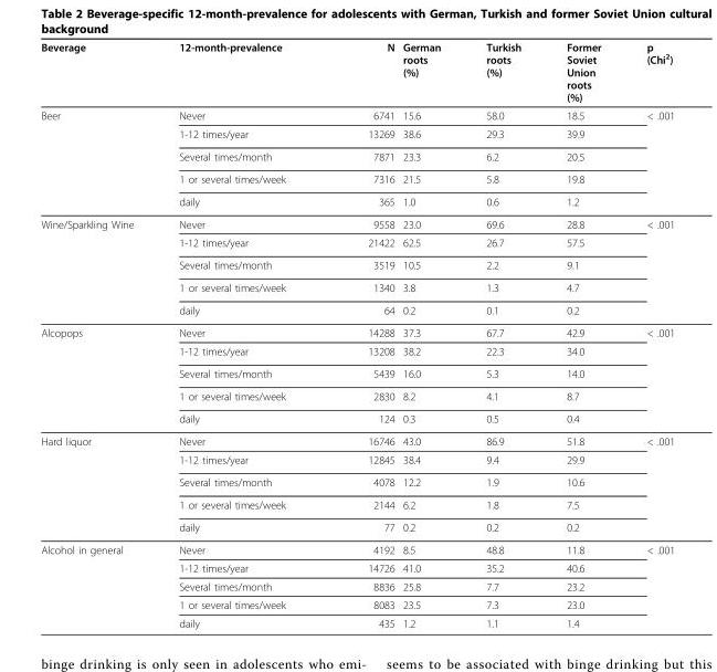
<table><thead><tr><td>Beverage</td><td>12-month-prevalence</td><td>N</td><td>German roots (%)</td><td>Turkish roots (%)</td><td>Former Soviet Union roots (%)</td><td>p (Chi<sup>2</sup>)</td></tr></thead><tbody><tr><td rowspan="5">Beer</td><td>Never</td><td>6741</td><td>15.6</td><td>58.0</td><td>18.5</td><td>&lt; .001</td></tr><tr><td>1-12 times/year</td><td>13269</td><td>38.6</td><td>29.3</td><td>39.9</td><td></td></tr><tr><td>Several times/month</td><td>7871</td><td>23.3</td><td>6.2</td><td>20.5</td><td></td></tr><tr><td>1 or several times/week</td><td>7316</td><td>21.5</td><td>5.8</td><td>19.8</td><td></td></tr><tr><td>daily</td><td>365</td><td>1.0</td><td>0.6</td><td>1.2</td><td></td></tr><tr><td rowspan="5">Wine/Sparkling Wine</td><td>Never</td><td>9558</td><td>23.0</td><td>69.6</td><td>28.8</td><td>&lt; .001</td></tr><tr><td>1-12 times/year</td><td>21422</td><td>62.5</td><td>26.7</td><td>57.5</td><td></td></tr><tr><td>Several times/month</td><td>3519</td><td>10.5</td><td>2.2</td><td>9.1</td><td></td></tr><tr><td>1 or several times/week</td><td>1340</td><td>3.8</td><td>1.3</td><td>4.7</td><td></td></tr><tr><td>daily</td><td>64</td><td>0.2</td><td>0.1</td><td>0.2</td><td></td></tr><tr><td rowspan="5">Alcopops</td><td>Never</td><td>14288</td><td>37.3</td><td>67.7</td><td>42.9</td><td>&lt; .001</td></tr><tr><td>1-12 times/year</td><td>13208</td><td>38.2</td><td>22.3</td><td>34.0</td><td></td></tr><tr><td>Several times/month</td><td>5439</td><td>16.0</td><td>5.3</td><td>14.0</td><td></td></tr><tr><td>1 or several times/week</td><td>2830</td><td>8.2</td><td>4.1</td><td>8.7</td><td></td></tr><tr><td>daily</td><td>124</td><td>0.3</td><td>0.5</td><td>0.4</td><td></td></tr><tr><td rowspan="5">Hard liquor</td><td>Never</td><td>16746</td><td>43.0</td><td>86.9</td><td>51.8</td><td>&lt; .001</td></tr><tr><td>1-12 times/year</td><td>12845</td><td>38.4</td><td>9.4</td><td>29.9</td><td></td></tr><tr><td>Several times/month</td><td>4078</td><td>12.2</td><td>1.9</td><td>10.6</td><td></td></tr><tr><td>1 or several times/week</td><td>2144</td><td>6.2</td><td>1.8</td><td>7.5</td><td></td></tr><tr><td>daily</td><td>77</td><td>0.2</td><td>0.2</td><td>0.2</td><td></td></tr><tr><td rowspan="5">Alcohol in general</td><td>Never</td><td>4192</td><td>8.5</td><td>48.8</td><td>11.8</td><td>&lt; .001</td></tr><tr><td>1-12 times/year</td><td>14726</td><td>41.0</td><td>35.2</td><td>40.6</td><td></td></tr><tr><td>Several times/month</td><td>8836</td><td>25.8</td><td>7.7</td><td>23.2</td><td></td></tr><tr><td>1 or several times/week</td><td>8083</td><td>23.5</td><td>7.3</td><td>23.0</td><td></td></tr><tr><td>daily</td><td>435</td><td>1.2</td><td>1.1</td><td>1.4</td><td></td></tr></tbody></table>